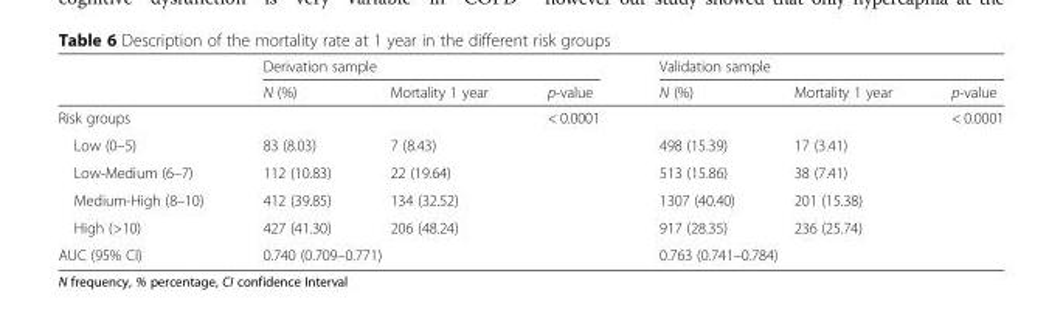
<table><thead><tr><td rowspan="2"></td><td colspan="3">Derivation sample</td><td colspan="3">Validation sample</td></tr><tr><td>N (%)</td><td>Mortality 1 year</td><td>p-value</td><td>N (%)</td><td>Mortality 1 year</td><td>p-value</td></tr></thead><tbody><tr><td>Risk groups</td><td></td><td></td><td>&lt; 0.0001</td><td></td><td></td><td>&lt; 0.0001</td></tr><tr><td>Low (0–5)</td><td>83 (8.03)</td><td>7 (8.43)</td><td></td><td>498 (15.39)</td><td>17 (3.41)</td><td></td></tr><tr><td>Low-Medium (6–7)</td><td>112 (10.83)</td><td>22 (19.64)</td><td></td><td>513 (15.86)</td><td>38 (7.41)</td><td></td></tr><tr><td>Medium-High (8–10)</td><td>412 (39.85)</td><td>134 (32.52)</td><td></td><td>1307 (40.40)</td><td>201 (15.38)</td><td></td></tr><tr><td>High (&gt;10)</td><td>427 (41.30)</td><td>206 (48.24)</td><td></td><td>917 (28.35)</td><td>236 (25.74)</td><td></td></tr><tr><td>AUC (95% CI)</td><td colspan="3">0.740 (0.709–0.771)</td><td colspan="3">0.763 (0.741–0.784)</td></tr></tbody></table>